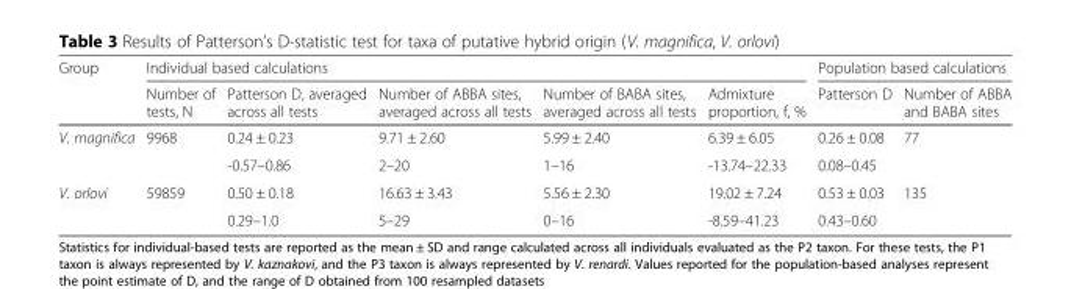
<table><thead><tr><td rowspan="2">Group</td><td colspan="5">Individual based calculations</td><td colspan="2">Population based calculations</td></tr><tr><td>Number of tests, N</td><td>Patterson D, averaged across all tests</td><td>Number of ABBA sites, averaged across all tests</td><td>Number of BABA sites, averaged across all tests</td><td>Admixture proportion, f, %</td><td>Patterson D</td><td>Number of ABBA and BABA sites</td></tr></thead><tbody><tr><td rowspan="2">V. magnifica</td><td rowspan="2">9968</td><td>0.24 ± 0.23</td><td>9.71 ± 2.60</td><td>5.99 ± 2.40</td><td>6.39 ± 6.05</td><td>0.26 ± 0.08</td><td rowspan="2">77</td></tr><tr><td>-0.57–0.86</td><td>2–20</td><td>1–16</td><td>-13.74–22.33</td><td>0.08–0.45</td></tr><tr><td rowspan="2">V. orlovi</td><td rowspan="2">59859</td><td>0.50 ± 0.18</td><td>16.63 ± 3.43</td><td>5.56 ± 2.30</td><td>19.02 ± 7.24</td><td>0.53 ± 0.03</td><td rowspan="2">135</td></tr><tr><td>0.29–1.0</td><td>5–29</td><td>0–16</td><td>-8.59–41.23</td><td>0.43–0.60</td></tr></tbody></table>